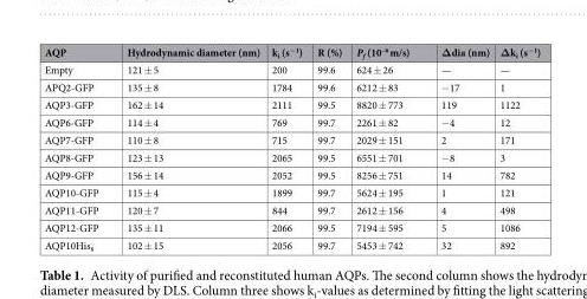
<table><thead><tr><td>AQP</td><td>Hydrodynamic diameter (nm)</td><td>k<sub>i</sub> (s<sup>−1</sup>)</td><td>R (%)</td><td>P<sub>f</sub> (10<sup>–6</sup> m/s)</td><td>Δdia (nm)</td><td>Δk<sub>i</sub> (s<sup>−1</sup>)</td></tr></thead><tbody><tr><td>Empty</td><td>121 ± 5</td><td>200</td><td>99.6</td><td>624 ± 26</td><td>—</td><td>—</td></tr><tr><td>APQ2-GFP</td><td>135 ± 8</td><td>1784</td><td>99.6</td><td>6212 ± 83</td><td>−17</td><td>1</td></tr><tr><td>AQP3-GFP</td><td>162 ± 14</td><td>2111</td><td>99.5</td><td>8820 ± 773</td><td>119</td><td>1122</td></tr><tr><td>AQP6-GFP</td><td>114 ± 4</td><td>769</td><td>99.7</td><td>2261 ± 82</td><td>−4</td><td>12</td></tr><tr><td>AQP7-GFP</td><td>110 ± 8</td><td>715</td><td>99.7</td><td>2029 ± 151</td><td>2</td><td>171</td></tr><tr><td>AQP8-GFP</td><td>123 ± 13</td><td>2065</td><td>99.5</td><td>6551 ± 701</td><td>−8</td><td>3</td></tr><tr><td>AQP9-GFP</td><td>156 ± 14</td><td>2052</td><td>99.5</td><td>8256 ± 751</td><td>14</td><td>782</td></tr><tr><td>AQP10-GFP</td><td>115 ± 4</td><td>1899</td><td>99.7</td><td>5624 ± 195</td><td>1</td><td>121</td></tr><tr><td>AQP11-GFP</td><td>120 ± 7</td><td>844</td><td>99.7</td><td>2612 ± 156</td><td>4</td><td>498</td></tr><tr><td>AQP12-GFP</td><td>135 ± 11</td><td>2066</td><td>99.5</td><td>7194 ± 595</td><td>5</td><td>1086</td></tr><tr><td>AQP10His<sub>8</sub></td><td>102 ± 15</td><td>2056</td><td>99.7</td><td>5453 ± 742</td><td>32</td><td>892</td></tr></tbody></table>